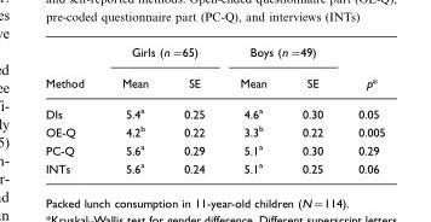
<table><thead><tr><td rowspan="2">Method</td><td colspan="2">Girls (n=65)</td><td colspan="2">Boys (n=49)</td><td rowspan="2">p*</td></tr><tr><td>Mean</td><td>SE</td><td>Mean</td><td>SE</td></tr></thead><tbody><tr><td>DIs</td><td>5.4<sup>a</sup></td><td>0.25</td><td>4.6<sup>a</sup></td><td>0.30</td><td>0.05</td></tr><tr><td>OE-Q</td><td>4.2<sup>b</sup></td><td>0.22</td><td>3.3<sup>b</sup></td><td>0.22</td><td>0.005</td></tr><tr><td>PC-Q</td><td>5.6<sup>a</sup></td><td>0.29</td><td>5.1<sup>a</sup></td><td>0.30</td><td>0.29</td></tr><tr><td>INTs</td><td>5.6<sup>a</sup></td><td>0.24</td><td>5.1<sup>a</sup></td><td>0.25</td><td>0.06</td></tr></tbody></table>